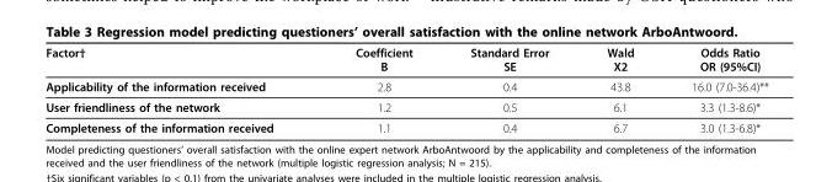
<table><thead><tr><td>Factor†</td><td>Coefficient B</td><td>Standard Error SE</td><td>Wald X2</td><td>Odds Ratio OR (95%CI)</td></tr></thead><tbody><tr><td>Applicability of the information received</td><td>2.8</td><td>0.4</td><td>43.8</td><td>16.0 (7.0-36.4)**</td></tr><tr><td>User friendliness of the network</td><td>1.2</td><td>0.5</td><td>6.1</td><td>3.3 (1.3-8.6)*</td></tr><tr><td>Completeness of the information received</td><td>1.1</td><td>0.4</td><td>6.7</td><td>3.0 (1.3-6.8)*</td></tr></tbody></table>